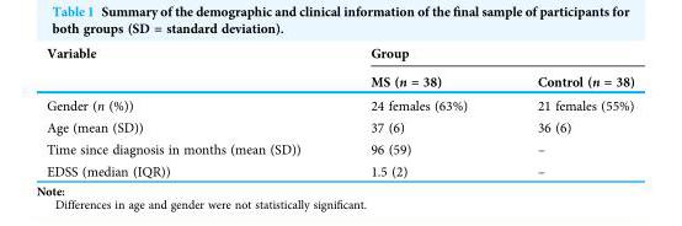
<table><thead><tr><td rowspan="2">Variable</td><td colspan="2">Group</td></tr><tr><td>MS (n = 38)</td><td>Control (n = 38)</td></tr></thead><tbody><tr><td>Gender (n (%))</td><td>24 females (63%)</td><td>21 females (55%)</td></tr><tr><td>Age (mean (SD))</td><td>37 (6)</td><td>36 (6)</td></tr><tr><td>Time since diagnosis in months (mean (SD))</td><td>96 (59)</td><td>–</td></tr><tr><td>EDSS (median (IQR))</td><td>1.5 (2)</td><td>–</td></tr></tbody></table>